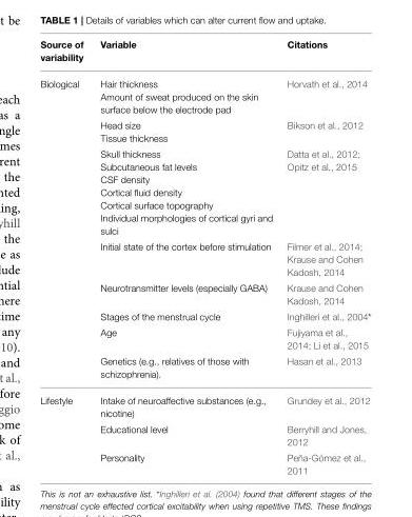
<table><thead><tr><td>Source of variability</td><td>Variable</td><td>Citations</td></tr></thead><tbody><tr><td rowspan="8">Biological</td><td>Hair thickness Amount of sweat produced on the skin surface below the electrode pad</td><td>Horvath et al., 2014</td></tr><tr><td>Head size Tissue thickness</td><td>Bikson et al., 2012</td></tr><tr><td>Skull thickness Subcutaneous fat levels CSF density Cortical fluid density Cortical surface topography Individual morphologies of cortical gyri and sulci</td><td>Datta et al., 2012; Opitz et al., 2015</td></tr><tr><td>Initial state of the cortex before stimulation</td><td>Filmer et al., 2014; Krause and Cohen Kadosh, 2014</td></tr><tr><td>Neurotransmitter levels (especially GABA)</td><td>Krause and Cohen Kadosh, 2014</td></tr><tr><td>Stages of the menstrual cycle</td><td>Inghilleri et al., 2004*</td></tr><tr><td>Age</td><td>Fujiyama et al., 2014; Li et al., 2015</td></tr><tr><td>Genetics (e.g., relatives of those with schizophrenia).</td><td>Hasan et al., 2013</td></tr><tr><td rowspan="3">Lifestyle</td><td>Intake of neuroaffective substances (e.g., nicotine)</td><td>Grundey et al., 2012</td></tr><tr><td>Educational level</td><td>Berryhill and Jones, 2012</td></tr><tr><td>Personality</td><td>Peña-Gómez et al., 2011</td></tr></tbody></table>